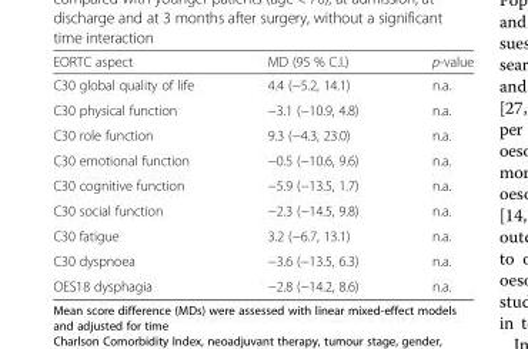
<table><thead><tr><td>EORTC aspect</td><td>MD (95 % C.I.)</td><td>p-value</td></tr></thead><tbody><tr><td>C30 global quality of life</td><td>4.4 (−5.2, 14.1)</td><td>n.a.</td></tr><tr><td>C30 physical function</td><td>−3.1 (−10.9, 4.8)</td><td>n.a.</td></tr><tr><td>C30 role function</td><td>9.3 (−4.3, 23.0)</td><td>n.a.</td></tr><tr><td>C30 emotional function</td><td>−0.5 (−10.6, 9.6)</td><td>n.a.</td></tr><tr><td>C30 cognitive function</td><td>−5.9 (−13.5, 1.7)</td><td>n.a.</td></tr><tr><td>C30 social function</td><td>−2.3 (−14.5, 9.8)</td><td>n.a.</td></tr><tr><td>C30 fatigue</td><td>3.2 (−6.7, 13.1)</td><td>n.a.</td></tr><tr><td>C30 dyspnoea</td><td>−3.6 (−13.5, 6.3)</td><td>n.a.</td></tr><tr><td>OES18 dysphagia</td><td>−2.8 (−14.2, 8.6)</td><td>n.a.</td></tr></tbody></table>